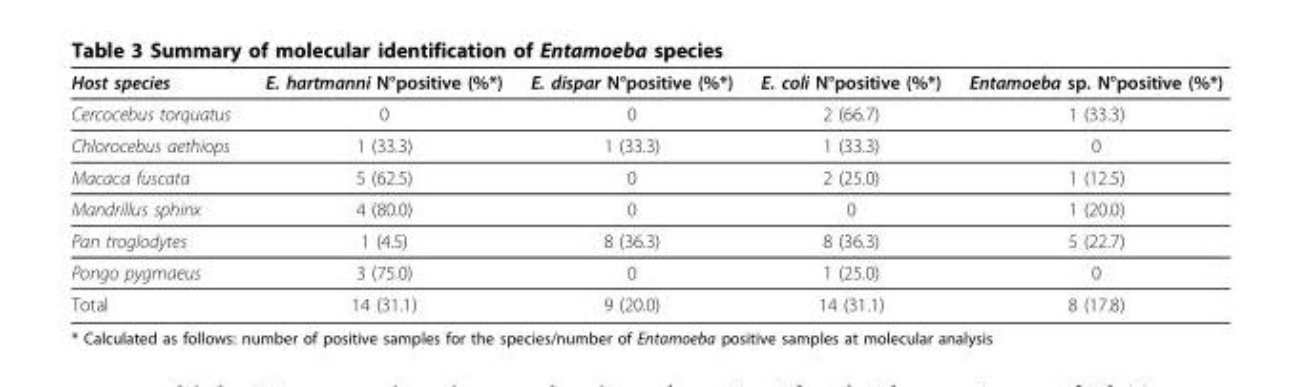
<table><thead><tr><td>Host species</td><td>E. hartmanni N°positive (%*)</td><td>E. dispar N°positive (%*)</td><td>E. coli N°positive (%*)</td><td>Entamoeba sp. N°positive (%*)</td></tr></thead><tbody><tr><td>Cercocebus torquatus</td><td>0</td><td>0</td><td>2 (66.7)</td><td>1 (33.3)</td></tr><tr><td>Chlorocebus aethiops</td><td>1 (33.3)</td><td>1 (33.3)</td><td>1 (33.3)</td><td>0</td></tr><tr><td>Macaca fuscata</td><td>5 (62.5)</td><td>0</td><td>2 (25.0)</td><td>1 (12.5)</td></tr><tr><td>Mandrillus sphinx</td><td>4 (80.0)</td><td>0</td><td>0</td><td>1 (20.0)</td></tr><tr><td>Pan troglodytes</td><td>1 (4.5)</td><td>8 (36.3)</td><td>8 (36.3)</td><td>5 (22.7)</td></tr><tr><td>Pongo pygmaeus</td><td>3 (75.0)</td><td>0</td><td>1 (25.0)</td><td>0</td></tr><tr><td>Total</td><td>14 (31.1)</td><td>9 (20.0)</td><td>14 (31.1)</td><td>8 (17.8)</td></tr></tbody></table>